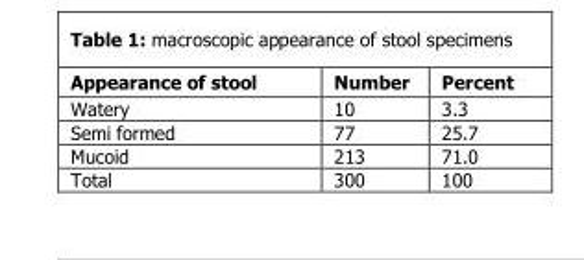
<table><thead><tr><td>Appearance of stool</td><td>Number</td><td>Percent</td></tr></thead><tbody><tr><td>Watery</td><td>10</td><td>3.3</td></tr><tr><td>Semi formed</td><td>77</td><td>25.7</td></tr><tr><td>Mucoid</td><td>213</td><td>71.0</td></tr><tr><td>Total</td><td>300</td><td>100</td></tr></tbody></table>